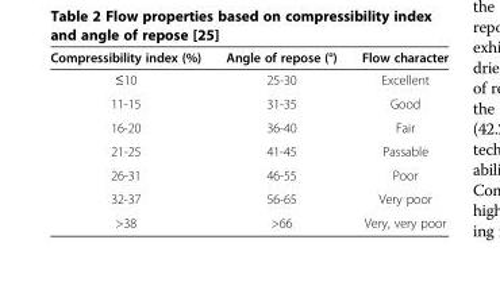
<table><thead><tr><td>Compressibility index (%)</td><td>Angle of repose (°)</td><td>Flow character</td></tr></thead><tbody><tr><td>≤10</td><td>25-30</td><td>Excellent</td></tr><tr><td>11-15</td><td>31-35</td><td>Good</td></tr><tr><td>16-20</td><td>36-40</td><td>Fair</td></tr><tr><td>21-25</td><td>41-45</td><td>Passable</td></tr><tr><td>26-31</td><td>46-55</td><td>Poor</td></tr><tr><td>32-37</td><td>56-65</td><td>Very poor</td></tr><tr><td>&gt;38</td><td>&gt;66</td><td>Very, very poor</td></tr></tbody></table>